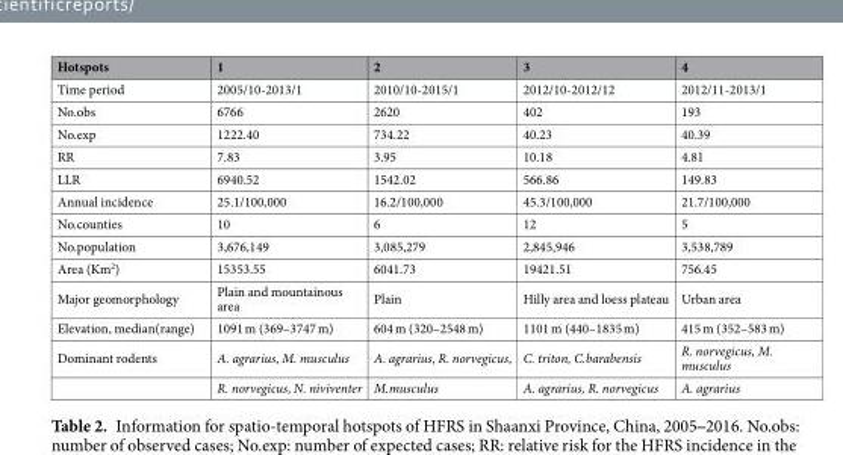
<table><thead><tr><td>Hotspots</td><td>1</td><td>2</td><td>3</td><td>4</td></tr></thead><tbody><tr><td>Time period</td><td>2005/10-2013/1</td><td>2010/10-2015/1</td><td>2012/10-2012/12</td><td>2012/11-2013/1</td></tr><tr><td>No.obs</td><td>6766</td><td>2620</td><td>402</td><td>193</td></tr><tr><td>No.exp</td><td>1222.40</td><td>734.22</td><td>40.23</td><td>40.39</td></tr><tr><td>RR</td><td>7.83</td><td>3.95</td><td>10.18</td><td>4.81</td></tr><tr><td>LLR</td><td>6940.52</td><td>1542.02</td><td>566.86</td><td>149.83</td></tr><tr><td>Annual incidence</td><td>25.1/100,000</td><td>16.2/100,000</td><td>45.3/100,000</td><td>21.7/100,000</td></tr><tr><td>No.counties</td><td>10</td><td>6</td><td>12</td><td>5</td></tr><tr><td>No.population</td><td>3,676,149</td><td>3,085,279</td><td>2,845,946</td><td>3,538,789</td></tr><tr><td>Area (Km<sup>2</sup>)</td><td>15353.55</td><td>6041.73</td><td>19421.51</td><td>756.45</td></tr><tr><td>Major geomorphology</td><td>Plain and mountainous area</td><td>Plain</td><td>Hilly area and loess plateau</td><td>Urban area</td></tr><tr><td>Elevation, median(range)</td><td>1091 m (369–3747 m)</td><td>604 m (320–2548 m)</td><td>1101 m (440–1835 m)</td><td>415 m (352–583 m)</td></tr><tr><td rowspan="2">Dominant rodents</td><td>A. agrarius, M. musculus</td><td>A. agrarius, R. norvegicus,</td><td>C. triton, C.barabensis</td><td>R. norvegicus, M. musculus</td></tr><tr><td>R. norvegicus, N. niviventer</td><td>M.musculus</td><td>A. agrarius, R. norvegicus</td><td>A. agrarius</td></tr></tbody></table>